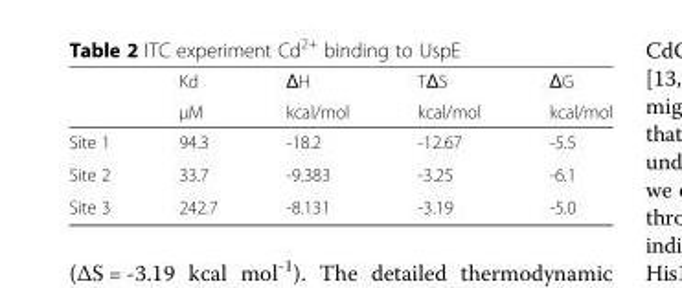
<table><thead><tr><td rowspan="2"></td><td rowspan="2">Kd μM</td><td rowspan="2">ΔH kcal/mol</td><td rowspan="2">TΔS kcal/mol</td><td rowspan="2">ΔG kcal/mol</td></tr><tr></tr></thead><tbody><tr><td>Site 1</td><td>94.3</td><td>-18.2</td><td>-12.67</td><td>-5.5</td></tr><tr><td>Site 2</td><td>33.7</td><td>-9.383</td><td>-3.25</td><td>-6.1</td></tr><tr><td>Site 3</td><td>242.7</td><td>-8.131</td><td>-3.19</td><td>-5.0</td></tr></tbody></table>